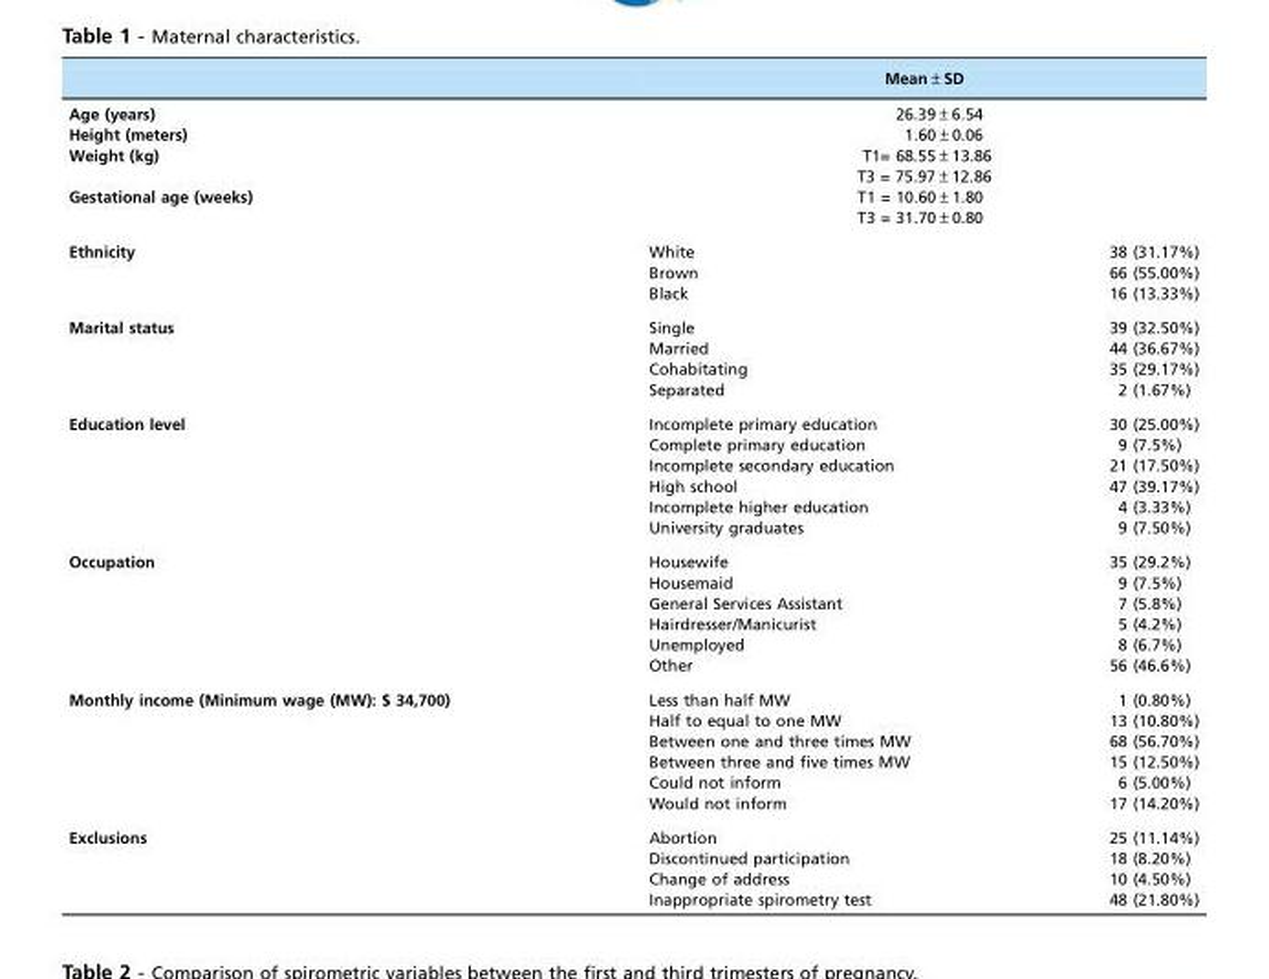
<table><thead><tr><td></td><td colspan="2">Mean±SD</td></tr></thead><tbody><tr><td>Age (years)</td><td colspan="2">26.39±6.54</td></tr><tr><td>Height (meters)</td><td colspan="2">1.60±0.06</td></tr><tr><td rowspan="2">Weight (kg)</td><td colspan="2">T1= 68.55±13.86</td></tr><tr><td colspan="2">T3 = 75.97±12.86</td></tr><tr><td rowspan="2">Gestational age (weeks)</td><td colspan="2">T1 = 10.60±1.80</td></tr><tr><td colspan="2">T3 = 31.70±0.80</td></tr><tr><td rowspan="3">Ethnicity</td><td>White</td><td>38 (31.17%)</td></tr><tr><td>Brown</td><td>66 (55.00%)</td></tr><tr><td>Black</td><td>16 (13.33%)</td></tr><tr><td rowspan="4">Marital status</td><td>Single</td><td>39 (32.50%)</td></tr><tr><td>Married</td><td>44 (36.67%)</td></tr><tr><td>Cohabitating</td><td>35 (29.17%)</td></tr><tr><td>Separated</td><td>2 (1.67%)</td></tr><tr><td rowspan="6">Education level</td><td>Incomplete primary education</td><td>30 (25.00%)</td></tr><tr><td>Complete primary education</td><td>9 (7.5%)</td></tr><tr><td>Incomplete secondary education</td><td>21 (17.50%)</td></tr><tr><td>High school</td><td>47 (39.17%)</td></tr><tr><td>Incomplete higher education</td><td>4 (3.33%)</td></tr><tr><td>University graduates</td><td>9 (7.50%)</td></tr><tr><td rowspan="6">Occupation</td><td>Housewife</td><td>35 (29.2%)</td></tr><tr><td>Housemaid</td><td>9 (7.5%)</td></tr><tr><td>General Services Assistant</td><td>7 (5.8%)</td></tr><tr><td>Hairdresser/Manicurist</td><td>5 (4.2%)</td></tr><tr><td>Unemployed</td><td>8 (6.7%)</td></tr><tr><td>Other</td><td>56 (46.6%)</td></tr><tr><td rowspan="6">Monthly income (Minimum wage (MW): $ 34,700)</td><td>Less than half MW</td><td>1 (0.80%)</td></tr><tr><td>Half to equal to one MW</td><td>13 (10.80%)</td></tr><tr><td>Between one and three times MW</td><td>68 (56.70%)</td></tr><tr><td>Between three and five times MW</td><td>15 (12.50%)</td></tr><tr><td>Could not inform</td><td>6 (5.00%)</td></tr><tr><td>Would not inform</td><td>17 (14.20%)</td></tr><tr><td rowspan="4">Exclusions</td><td>Abortion</td><td>25 (11.14%)</td></tr><tr><td>Discontinued participation</td><td>18 (8.20%)</td></tr><tr><td>Change of address</td><td>10 (4.50%)</td></tr><tr><td>Inappropriate spirometry test</td><td>48 (21.80%)</td></tr></tbody></table>